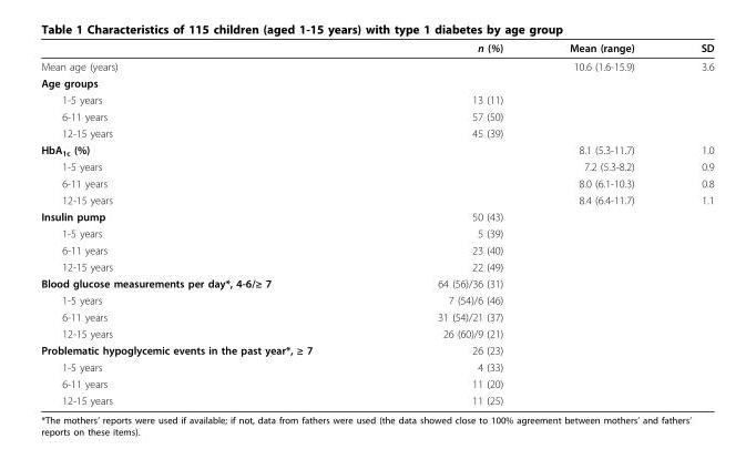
<table><thead><tr><td></td><td>n (%)</td><td>Mean (range)</td><td>SD</td></tr></thead><tbody><tr><td>Mean age (years)</td><td></td><td>10.6 (1.6-15.9)</td><td>3.6</td></tr><tr><td colspan="4">Age groups</td></tr><tr><td>1-5 years</td><td>13 (11)</td><td></td><td></td></tr><tr><td>6-11 years</td><td>57 (50)</td><td></td><td></td></tr><tr><td>12-15 years</td><td>45 (39)</td><td></td><td></td></tr><tr><td>HbA<sub>1c</sub> (%)</td><td></td><td>8.1 (5.3-11.7)</td><td>1.0</td></tr><tr><td>1-5 years</td><td></td><td>7.2 (5.3-8.2)</td><td>0.9</td></tr><tr><td>6-11 years</td><td></td><td>8.0 (6.1-10.3)</td><td>0.8</td></tr><tr><td>12-15 years</td><td></td><td>8.4 (6.4-11.7)</td><td>1.1</td></tr><tr><td>Insulin pump</td><td>50 (43)</td><td></td><td></td></tr><tr><td>1-5 years</td><td>5 (39)</td><td></td><td></td></tr><tr><td>6-11 years</td><td>23 (40)</td><td></td><td></td></tr><tr><td>12-15 years</td><td>22 (49)</td><td></td><td></td></tr><tr><td>Blood glucose measurements per day*, 4-6/≥ 7</td><td>64 (56)/36 (31)</td><td></td><td></td></tr><tr><td>1-5 years</td><td>7 (54)/6 (46)</td><td></td><td></td></tr><tr><td>6-11 years</td><td>31 (54)/21 (37)</td><td></td><td></td></tr><tr><td>12-15 years</td><td>26 (60)/9 (21)</td><td></td><td></td></tr><tr><td>Problematic hypoglycemic events in the past year*, ≥ 7</td><td>26 (23)</td><td></td><td></td></tr><tr><td>1-5 years</td><td>4 (33)</td><td></td><td></td></tr><tr><td>6-11 years</td><td>11 (20)</td><td></td><td></td></tr><tr><td>12-15 years</td><td>11 (25)</td><td></td><td></td></tr></tbody></table>